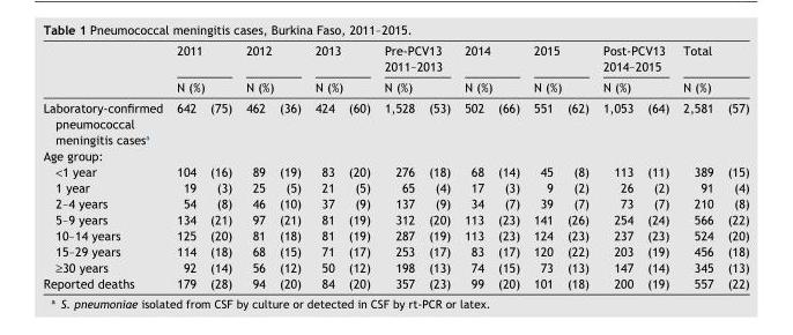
<table><thead><tr><td rowspan="3">Laboratory-confirmed pneumococcal meningitis cases<sup>a</sup></td><td rowspan="2" colspan="2">2011 N (%)</td><td rowspan="2" colspan="2">2012 N (%)</td><td rowspan="2" colspan="2">2013 N (%)</td><td rowspan="2" colspan="2">Pre-PCV13 2011–2013 N (%)</td><td rowspan="2" colspan="2">2014 N (%)</td><td rowspan="2" colspan="2">2015 N (%)</td><td rowspan="2" colspan="2">Post-PCV13 2014–2015 N (%)</td><td rowspan="2" colspan="2">Total N (%)</td></tr><tr></tr><tr><td>642</td><td>(75)</td><td>462</td><td>(36)</td><td>424</td><td>(60)</td><td>1,528</td><td>(53)</td><td>502</td><td>(66)</td><td>551</td><td>(62)</td><td>1,053</td><td>(64)</td><td>2,581</td><td>(57)</td></tr></thead><tbody><tr><td colspan="17">Age group:</td></tr><tr><td>&lt;1 year</td><td>104</td><td>(16)</td><td>89</td><td>(19)</td><td>83</td><td>(20)</td><td>276</td><td>(18)</td><td>68</td><td>(14)</td><td>45</td><td>(8)</td><td>113</td><td>(11)</td><td>389</td><td>(15)</td></tr><tr><td>1 year</td><td>19</td><td>(3)</td><td>25</td><td>(5)</td><td>21</td><td>(5)</td><td>65</td><td>(4)</td><td>17</td><td>(3)</td><td>9</td><td>(2)</td><td>26</td><td>(2)</td><td>91</td><td>(4)</td></tr><tr><td>2–4 years</td><td>54</td><td>(8)</td><td>46</td><td>(10)</td><td>37</td><td>(9)</td><td>137</td><td>(9)</td><td>34</td><td>(7)</td><td>39</td><td>(7)</td><td>73</td><td>(7)</td><td>210</td><td>(8)</td></tr><tr><td>5–9 years</td><td>134</td><td>(21)</td><td>97</td><td>(21)</td><td>81</td><td>(19)</td><td>312</td><td>(20)</td><td>113</td><td>(23)</td><td>141</td><td>(26)</td><td>254</td><td>(24)</td><td>566</td><td>(22)</td></tr><tr><td>10–14 years</td><td>125</td><td>(20)</td><td>81</td><td>(18)</td><td>81</td><td>(19)</td><td>287</td><td>(19)</td><td>113</td><td>(23)</td><td>124</td><td>(23)</td><td>237</td><td>(23)</td><td>524</td><td>(20)</td></tr><tr><td>15–29 years</td><td>114</td><td>(18)</td><td>68</td><td>(15)</td><td>71</td><td>(17)</td><td>253</td><td>(17)</td><td>83</td><td>(17)</td><td>120</td><td>(22)</td><td>203</td><td>(19)</td><td>456</td><td>(18)</td></tr><tr><td>≥30 years</td><td>92</td><td>(14)</td><td>56</td><td>(12)</td><td>50</td><td>(12)</td><td>198</td><td>(13)</td><td>74</td><td>(15)</td><td>73</td><td>(13)</td><td>147</td><td>(14)</td><td>345</td><td>(13)</td></tr><tr><td>Reported deaths</td><td>179</td><td>(28)</td><td>94</td><td>(20)</td><td>84</td><td>(20)</td><td>357</td><td>(23)</td><td>99</td><td>(20)</td><td>101</td><td>(18)</td><td>200</td><td>(19)</td><td>557</td><td>(22)</td></tr></tbody></table>